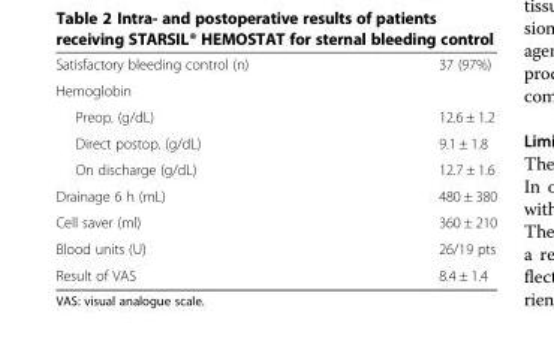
<table><tbody><tr><td>Satisfactory bleeding control (n)</td><td>37 (97%)</td></tr><tr><td colspan="2">Hemoglobin</td></tr><tr><td>Preop. (g/dL)</td><td>12.6 ± 1.2</td></tr><tr><td>Direct postop. (g/dL)</td><td>9.1 ± 1.8</td></tr><tr><td>On discharge (g/dL)</td><td>12.7 ± 1.6</td></tr><tr><td>Drainage 6 h (mL)</td><td>480 ± 380</td></tr><tr><td>Cell saver (ml)</td><td>360 ± 210</td></tr><tr><td>Blood units (U)</td><td>26/19 pts</td></tr><tr><td>Result of VAS</td><td>8.4 ± 1.4</td></tr></tbody></table>